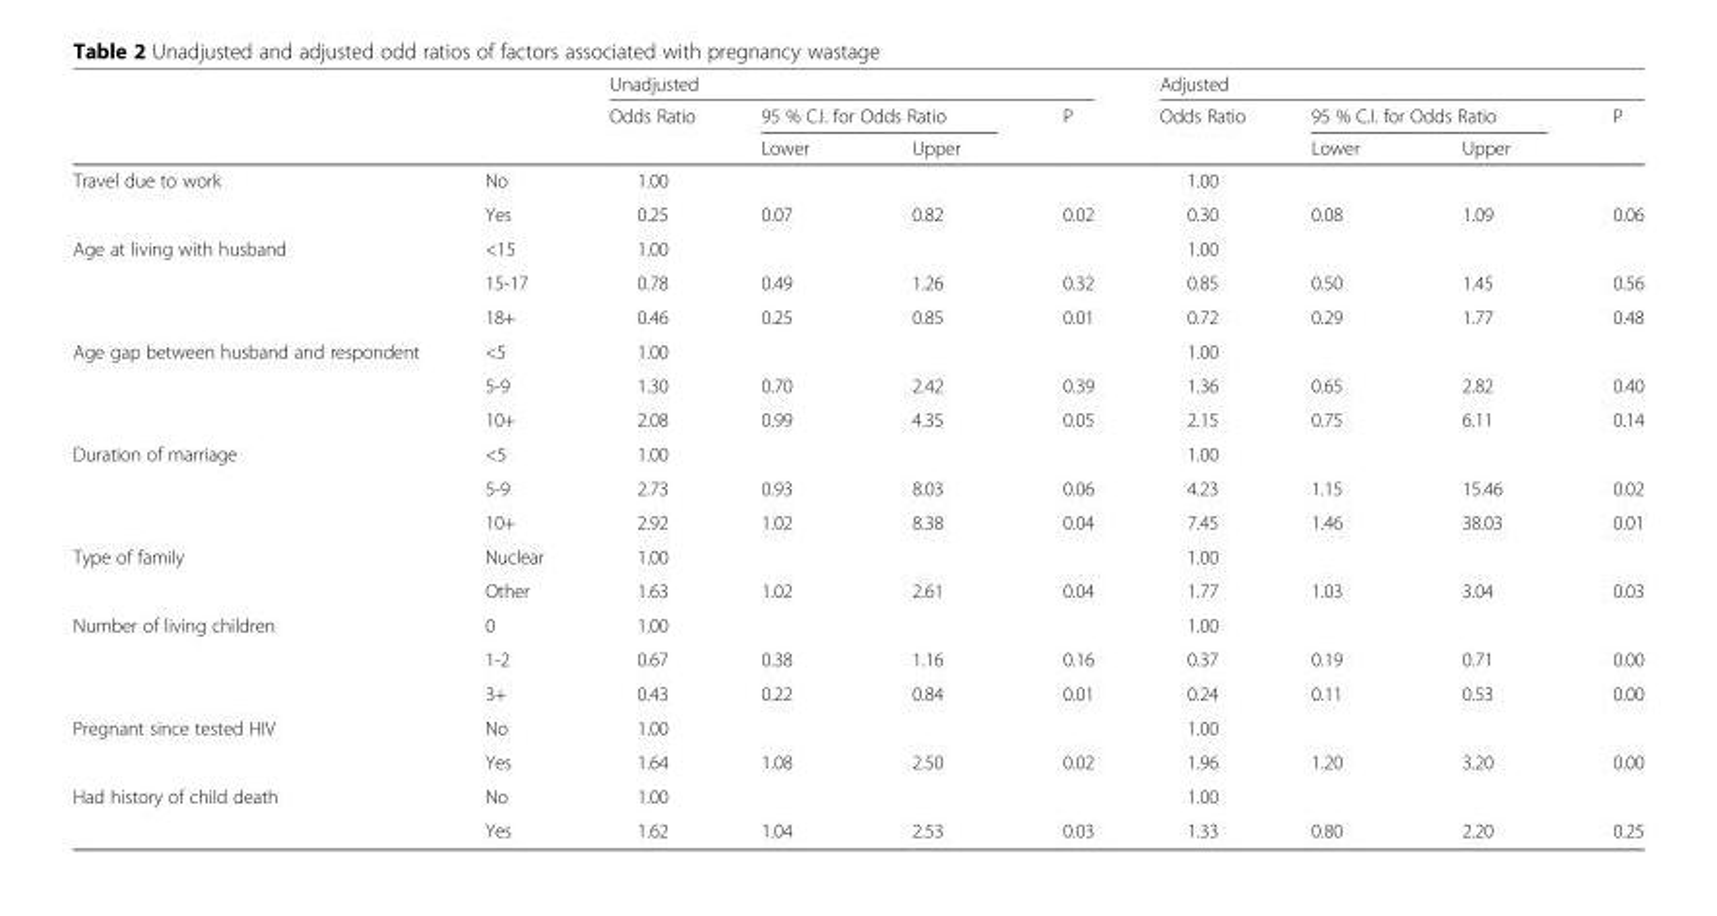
<table><thead><tr><td rowspan="3"></td><td rowspan="3"></td><td colspan="4">Unadjusted</td><td colspan="4">Adjusted</td></tr><tr><td rowspan="2">Odds Ratio</td><td colspan="2">95 % C.I. for Odds Ratio</td><td rowspan="2">P</td><td rowspan="2">Odds Ratio</td><td colspan="2">95 % C.I. for Odds Ratio</td><td rowspan="2">P</td></tr><tr><td>Lower</td><td>Upper</td><td>Lower</td><td>Upper</td></tr></thead><tbody><tr><td rowspan="2">Travel due to work</td><td>No</td><td>1.00</td><td></td><td></td><td></td><td>1.00</td><td></td><td></td><td></td></tr><tr><td>Yes</td><td>0.25</td><td>0.07</td><td>0.82</td><td>0.02</td><td>0.30</td><td>0.08</td><td>1.09</td><td>0.06</td></tr><tr><td rowspan="3">Age at living with husband</td><td>&lt;15</td><td>1.00</td><td></td><td></td><td></td><td>1.00</td><td></td><td></td><td></td></tr><tr><td>15-17</td><td>0.78</td><td>0.49</td><td>1.26</td><td>0.32</td><td>0.85</td><td>0.50</td><td>1.45</td><td>0.56</td></tr><tr><td>18+</td><td>0.46</td><td>0.25</td><td>0.85</td><td>0.01</td><td>0.72</td><td>0.29</td><td>1.77</td><td>0.48</td></tr><tr><td rowspan="3">Age gap between husband and respondent</td><td>&lt;5</td><td>1.00</td><td></td><td></td><td></td><td>1.00</td><td></td><td></td><td></td></tr><tr><td>5-9</td><td>1.30</td><td>0.70</td><td>2.42</td><td>0.39</td><td>1.36</td><td>0.65</td><td>2.82</td><td>0.40</td></tr><tr><td>10+</td><td>2.08</td><td>0.99</td><td>4.35</td><td>0.05</td><td>2.15</td><td>0.75</td><td>6.11</td><td>0.14</td></tr><tr><td rowspan="3">Duration of marriage</td><td>&lt;5</td><td>1.00</td><td></td><td></td><td></td><td>1.00</td><td></td><td></td><td></td></tr><tr><td>5-9</td><td>2.73</td><td>0.93</td><td>8.03</td><td>0.06</td><td>4.23</td><td>1.15</td><td>15.46</td><td>0.02</td></tr><tr><td>10+</td><td>2.92</td><td>1.02</td><td>8.38</td><td>0.04</td><td>7.45</td><td>1.46</td><td>38.03</td><td>0.01</td></tr><tr><td rowspan="2">Type of family</td><td>Nuclear</td><td>1.00</td><td></td><td></td><td></td><td>1.00</td><td></td><td></td><td></td></tr><tr><td>Other</td><td>1.63</td><td>1.02</td><td>2.61</td><td>0.04</td><td>1.77</td><td>1.03</td><td>3.04</td><td>0.03</td></tr><tr><td rowspan="3">Number of living children</td><td>0</td><td>1.00</td><td></td><td></td><td></td><td>1.00</td><td></td><td></td><td></td></tr><tr><td>1-2</td><td>0.67</td><td>0.38</td><td>1.16</td><td>0.16</td><td>0.37</td><td>0.19</td><td>0.71</td><td>0.00</td></tr><tr><td>3+</td><td>0.43</td><td>0.22</td><td>0.84</td><td>0.01</td><td>0.24</td><td>0.11</td><td>0.53</td><td>0.00</td></tr><tr><td rowspan="2">Pregnant since tested HIV</td><td>No</td><td>1.00</td><td></td><td></td><td></td><td>1.00</td><td></td><td></td><td></td></tr><tr><td>Yes</td><td>1.64</td><td>1.08</td><td>2.50</td><td>0.02</td><td>1.96</td><td>1.20</td><td>3.20</td><td>0.00</td></tr><tr><td rowspan="2">Had history of child death</td><td>No</td><td>1.00</td><td></td><td></td><td></td><td>1.00</td><td></td><td></td><td></td></tr><tr><td>Yes</td><td>1.62</td><td>1.04</td><td>2.53</td><td>0.03</td><td>1.33</td><td>0.80</td><td>2.20</td><td>0.25</td></tr></tbody></table>